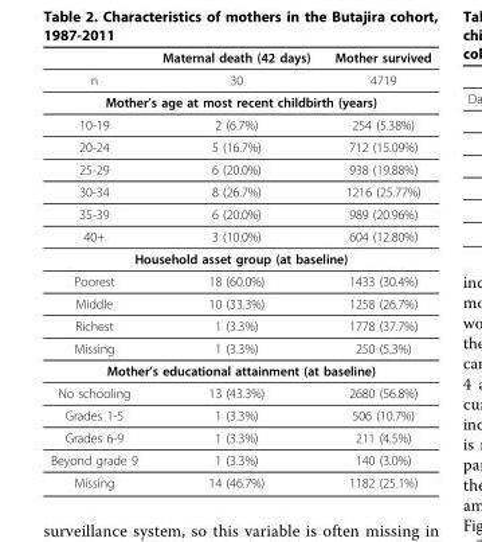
<table><thead><tr><td></td><td>Maternal death (42 days)</td><td>Mother survived</td></tr></thead><tbody><tr><td>n</td><td>30</td><td>4719</td></tr><tr><td colspan="3">Mother’s age at most recent childbirth (years)</td></tr><tr><td>10-19</td><td>2 (6.7%)</td><td>254 (5.38%)</td></tr><tr><td>20-24</td><td>5 (16.7%)</td><td>712 (15.09%)</td></tr><tr><td>25-29</td><td>6 (20.0%)</td><td>938 (19.88%)</td></tr><tr><td>30-34</td><td>8 (26.7%)</td><td>1216 (25.77%)</td></tr><tr><td>35-39</td><td>6 (20.0%)</td><td>989 (20.96%)</td></tr><tr><td>40+</td><td>3 (10.0%)</td><td>604 (12.80%)</td></tr><tr><td colspan="3">Household asset group (at baseline)</td></tr><tr><td>Poorest</td><td>18 (60.0%)</td><td>1433 (30.4%)</td></tr><tr><td>Middle</td><td>10 (33.3%)</td><td>1258 (26.7%)</td></tr><tr><td>Richest</td><td>1 (3.3%)</td><td>1778 (37.7%)</td></tr><tr><td>Missing</td><td>1 (3.3%)</td><td>250 (5.3%)</td></tr><tr><td colspan="3">Mother’s educational attainment (at baseline)</td></tr><tr><td>No schooling</td><td>13 (43.3%)</td><td>2680 (56.8%)</td></tr><tr><td>Grades 1-5</td><td>1 (3.3%)</td><td>506 (10.7%)</td></tr><tr><td>Grades 6-9</td><td>1 (3.3%)</td><td>211 (4.5%)</td></tr><tr><td>Beyond grade 9</td><td>1 (3.3%)</td><td>140 (3.0%)</td></tr><tr><td>Missing</td><td>14 (46.7%)</td><td>1182 (25.1%)</td></tr></tbody></table>